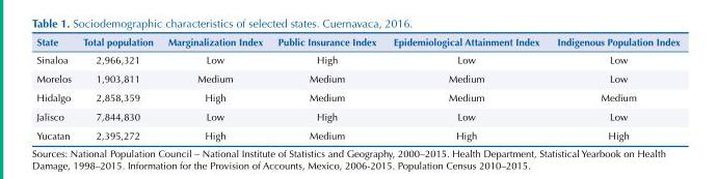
<table><thead><tr><td>State</td><td>Total population</td><td>Marginalization Index</td><td>Public Insurance Index</td><td>Epidemiological Attainment Index</td><td>Indigenous Population Index</td></tr></thead><tbody><tr><td>Sinaloa</td><td>2,966,321</td><td>Low</td><td>High</td><td>Low</td><td>Low</td></tr><tr><td>Morelos</td><td>1,903,811</td><td>Medium</td><td>Medium</td><td>Medium</td><td>Low</td></tr><tr><td>Hidalgo</td><td>2,858,359</td><td>High</td><td>Medium</td><td>Medium</td><td>Medium</td></tr><tr><td>Jalisco</td><td>7,844,830</td><td>Low</td><td>High</td><td>Low</td><td>Low</td></tr><tr><td>Yucatan</td><td>2,395,272</td><td>High</td><td>Medium</td><td>High</td><td>High</td></tr></tbody></table>